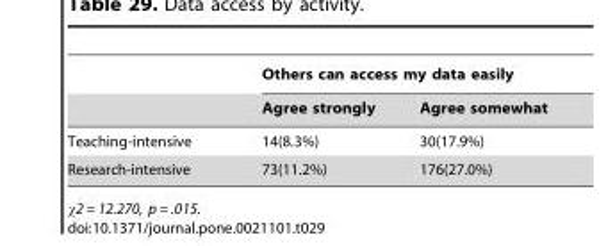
<table><thead><tr><td rowspan="2"></td><td colspan="2">Others can access my data easily</td></tr><tr><td>Agree strongly</td><td>Agree somewhat</td></tr></thead><tbody><tr><td>Teaching-intensive</td><td>14(8.3%)</td><td>30(17.9%)</td></tr><tr><td>Research-intensive</td><td>73(11.2%)</td><td>176(27.0%)</td></tr></tbody></table>